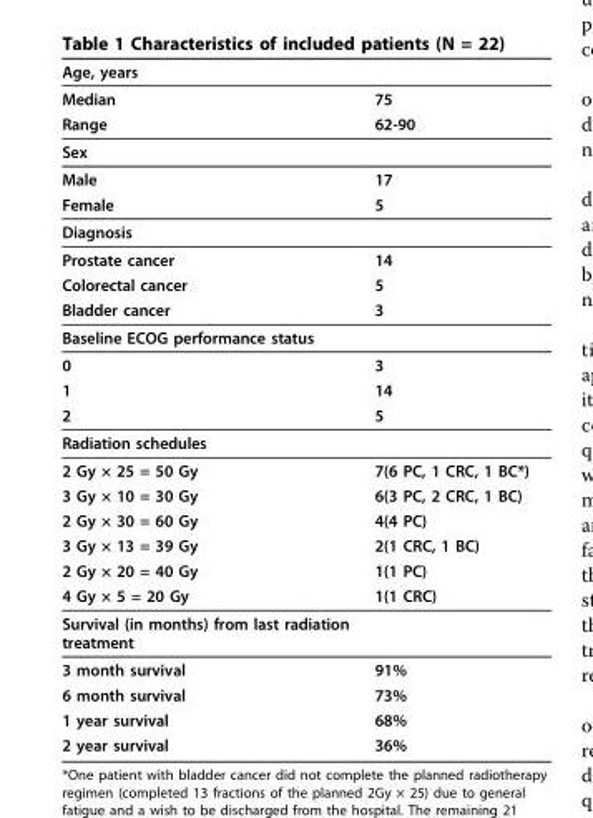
<table><thead><tr><td>Age, years</td><td></td></tr></thead><tbody><tr><td>Median</td><td>75</td></tr><tr><td>Range</td><td>62-90</td></tr><tr><td colspan="2">Sex</td></tr><tr><td>Male</td><td>17</td></tr><tr><td>Female</td><td>5</td></tr><tr><td colspan="2">Diagnosis</td></tr><tr><td>Prostate cancer</td><td>14</td></tr><tr><td>Colorectal cancer</td><td>5</td></tr><tr><td>Bladder cancer</td><td>3</td></tr><tr><td colspan="2">Baseline ECOG performance status</td></tr><tr><td>0</td><td>3</td></tr><tr><td>1</td><td>14</td></tr><tr><td>2</td><td>5</td></tr><tr><td colspan="2">Radiation schedules</td></tr><tr><td>2 Gy × 25 = 50 Gy</td><td>7(6 PC, 1 CRC, 1 BC*)</td></tr><tr><td>3 Gy × 10 = 30 Gy</td><td>6(3 PC, 2 CRC, 1 BC)</td></tr><tr><td>2 Gy × 30 = 60 Gy</td><td>4(4 PC)</td></tr><tr><td>3 Gy × 13 = 39 Gy</td><td>2(1 CRC, 1 BC)</td></tr><tr><td>2 Gy × 20 = 40 Gy</td><td>1(1 PC)</td></tr><tr><td>4 Gy × 5 = 20 Gy</td><td>1(1 CRC)</td></tr><tr><td colspan="2">Survival (in months) from last radiation treatment</td></tr><tr><td>3 month survival</td><td>91%</td></tr><tr><td>6 month survival</td><td>73%</td></tr><tr><td>1 year survival</td><td>68%</td></tr><tr><td>2 year survival</td><td>36%</td></tr></tbody></table>